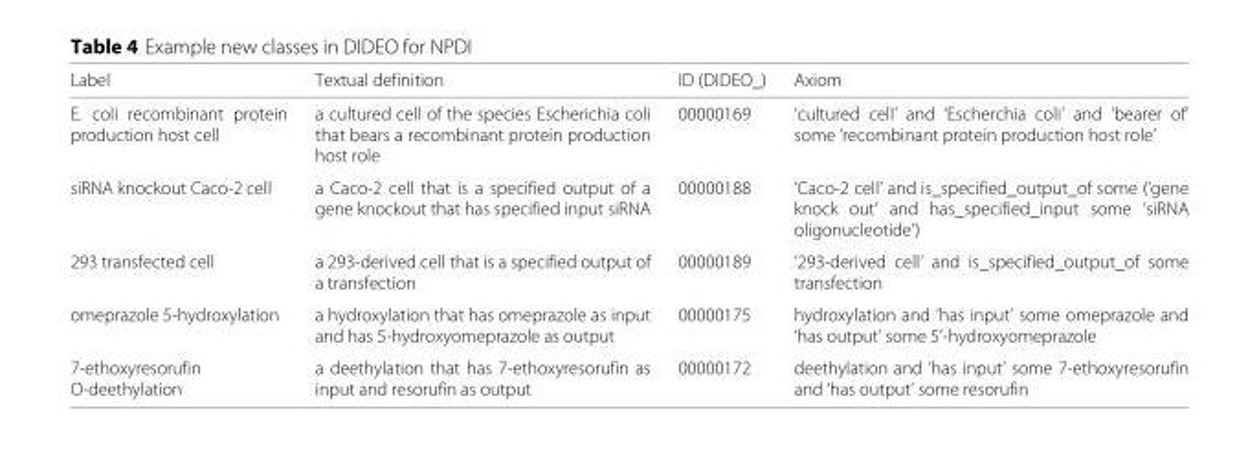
<table><thead><tr><td>Label</td><td>Textual definition</td><td>ID (DIDEO_)</td><td>Axiom</td></tr></thead><tbody><tr><td>E. coli recombinant protein production host cell</td><td>a cultured cell of the species Escherichia coli that bears a recombinant protein production host role</td><td>00000169</td><td>‘cultured cell’ and ‘Escherchia coli’ and ‘bearer of’ some ‘recombinant protein production host role’</td></tr><tr><td>siRNA knockout Caco-2 cell</td><td>a Caco-2 cell that is a specified output of a gene knockout that has specified input siRNA</td><td>00000188</td><td>‘Caco-2 cell’ and is_specified_output_of some (‘gene knock out’ and has_specified_input some ‘siRNA oligonucleotide’)</td></tr><tr><td>293 transfected cell</td><td>a 293-derived cell that is a specified output of a transfection</td><td>00000189</td><td>‘293-derived cell’ and is_specified_output_of some transfection</td></tr><tr><td>omeprazole 5-hydroxylation</td><td>a hydroxylation that has omeprazole as input and has 5-hydroxyomeprazole as output</td><td>00000175</td><td>hydroxylation and ‘has input’ some omeprazole and ‘has output’ some 5’-hydroxyomeprazole</td></tr><tr><td>7-ethoxyresorufin O-deethylation</td><td>a deethylation that has 7-ethoxyresorufin as input and resorufin as output</td><td>00000172</td><td>deethylation and ‘has input’ some 7-ethoxyresorufin and ‘has output’ some resorufin</td></tr></tbody></table>